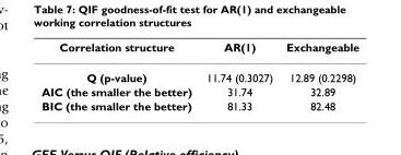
<table><thead><tr><td>Correlation structure</td><td>AR(1)</td><td>Exchangeable</td></tr></thead><tbody><tr><td>Q (p-value)</td><td>11.74 (0.3027)</td><td>12.89 (0.2298)</td></tr><tr><td>AIC (the smaller the better)</td><td>31.74</td><td>32.89</td></tr><tr><td>BIC (the smaller the better)</td><td>81.33</td><td>82.48</td></tr></tbody></table>